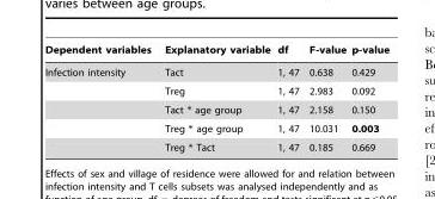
<table><thead><tr><td>Dependent variables</td><td>Explanatory variable</td><td>df</td><td>F-value</td><td>p-value</td></tr></thead><tbody><tr><td rowspan="5">Infection intensity</td><td>Tact</td><td>1, 47</td><td>0.638</td><td>0.429</td></tr><tr><td>Treg</td><td>1, 47</td><td>2.983</td><td>0.092</td></tr><tr><td>Tact * age group</td><td>1, 47</td><td>2.158</td><td>0.150</td></tr><tr><td>Treg * age group</td><td>1, 47</td><td>10.031</td><td>0.003</td></tr><tr><td>Treg * Tact</td><td>1, 47</td><td>0.185</td><td>0.669</td></tr></tbody></table>